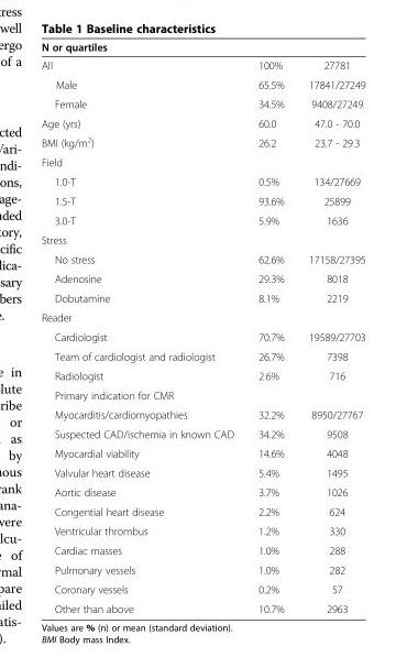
<table><thead><tr><td colspan="3">N or quartiles</td></tr><tr><td>All</td><td>100%</td><td>27781</td></tr></thead><tbody><tr><td>Male</td><td>65.5%</td><td>17841/27249</td></tr><tr><td>Female</td><td>34.5%</td><td>9408/27249</td></tr><tr><td>Age (yrs)</td><td>60.0</td><td>47.0 - 70.0</td></tr><tr><td>BMI (kg/m<sup>2</sup>)</td><td>26.2</td><td>23.7 - 29.3</td></tr><tr><td colspan="3">Field</td></tr><tr><td>1.0-T</td><td>0.5%</td><td>134/27669</td></tr><tr><td>1.5-T</td><td>93.6%</td><td>25899</td></tr><tr><td>3.0-T</td><td>5.9%</td><td>1636</td></tr><tr><td colspan="3">Stress</td></tr><tr><td>No stress</td><td>62.6%</td><td>17158/27395</td></tr><tr><td>Adenosine</td><td>29.3%</td><td>8018</td></tr><tr><td>Dobutamine</td><td>8.1%</td><td>2219</td></tr><tr><td colspan="3">Reader</td></tr><tr><td>Cardiologist</td><td>70.7%</td><td>19589/27703</td></tr><tr><td>Team of cardiologist and radiologist</td><td>26.7%</td><td>7398</td></tr><tr><td>Radiologist</td><td>2.6%</td><td>716</td></tr><tr><td colspan="3">Primary indication for CMR</td></tr><tr><td>Myocarditis/cardiomyopathies</td><td>32.2%</td><td>8950/27767</td></tr><tr><td>Suspected CAD/ischemia in known CAD</td><td>34.2%</td><td>9508</td></tr><tr><td>Myocardial viability</td><td>14.6%</td><td>4048</td></tr><tr><td>Valvular heart disease</td><td>5.4%</td><td>1495</td></tr><tr><td>Aortic disease</td><td>3.7%</td><td>1026</td></tr><tr><td>Congential heart disease</td><td>2.2%</td><td>624</td></tr><tr><td>Ventricular thrombus</td><td>1.2%</td><td>330</td></tr><tr><td>Cardiac masses</td><td>1.0%</td><td>288</td></tr><tr><td>Pulmonary vessels</td><td>1.0%</td><td>282</td></tr><tr><td>Coronary vessels</td><td>0.2%</td><td>57</td></tr><tr><td>Other than above</td><td>10.7%</td><td>2963</td></tr></tbody></table>